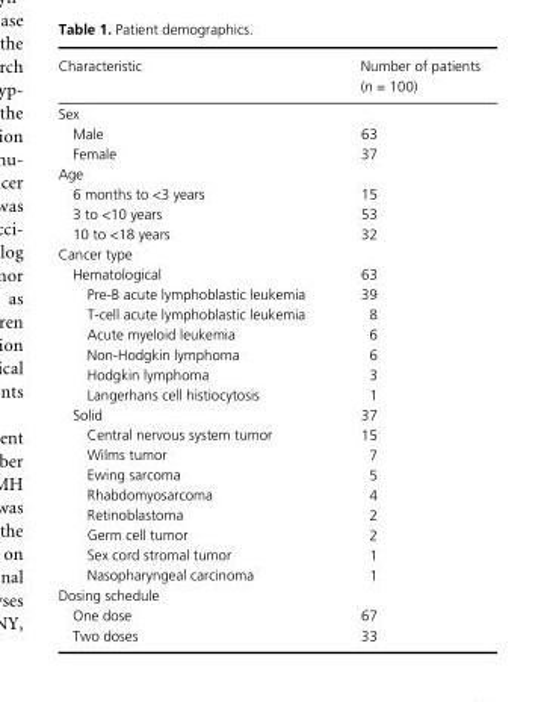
<table><thead><tr><td>Characteristic</td><td>Number of patients (n = 100)</td></tr></thead><tbody><tr><td colspan="2">Sex</td></tr><tr><td>Male</td><td>63</td></tr><tr><td>Female</td><td>37</td></tr><tr><td colspan="2">Age</td></tr><tr><td>6 months to &lt;3 years</td><td>15</td></tr><tr><td>3 to &lt;10 years</td><td>53</td></tr><tr><td>10 to &lt;18 years</td><td>32</td></tr><tr><td colspan="2">Cancer type</td></tr><tr><td>Hematological</td><td>63</td></tr><tr><td>Pre- B acute lymphoblastic leukemia</td><td>39</td></tr><tr><td>T- cell acute lymphoblastic leukemia</td><td>8</td></tr><tr><td>Acute myeloid leukemia</td><td>6</td></tr><tr><td>Non- Hodgkin lymphoma</td><td>6</td></tr><tr><td>Hodgkin lymphoma</td><td>3</td></tr><tr><td>Langerhans cell histiocytosis</td><td>1</td></tr><tr><td>Solid</td><td>37</td></tr><tr><td>Central nervous system tumor</td><td>15</td></tr><tr><td>Wilms tumor</td><td>7</td></tr><tr><td>Ewing sarcoma</td><td>5</td></tr><tr><td>Rhabdomyosarcoma</td><td>4</td></tr><tr><td>Retinoblastoma</td><td>2</td></tr><tr><td>Germ cell tumor</td><td>2</td></tr><tr><td>Sex cord stromal tumor</td><td>1</td></tr><tr><td>Nasopharyngeal carcinoma</td><td>1</td></tr><tr><td colspan="2">Dosing schedule</td></tr><tr><td>One dose</td><td>67</td></tr><tr><td>Two doses</td><td>33</td></tr></tbody></table>